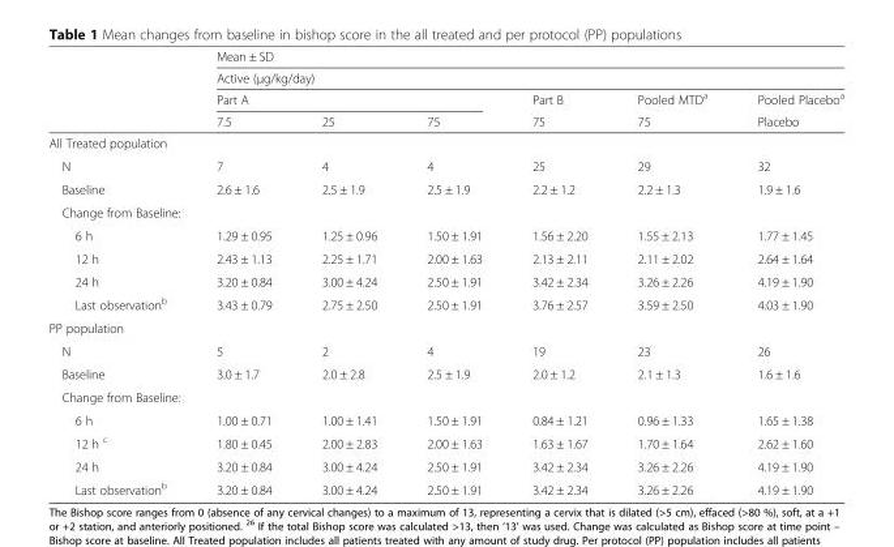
<table><thead><tr><td rowspan="4"></td><td rowspan="2" colspan="6">Mean ± SD Active (μg/kg/day)</td></tr><tr></tr><tr><td colspan="3">Part A</td><td rowspan="2">Part B 75</td><td rowspan="2">Pooled MTD<sup>a</sup> 75</td><td rowspan="2">Pooled Placebo<sup>a</sup> Placebo</td></tr><tr><td>7.5</td><td>25</td><td>75</td></tr></thead><tbody><tr><td colspan="7">All Treated population</td></tr><tr><td>N</td><td>7</td><td>4</td><td>4</td><td>25</td><td>29</td><td>32</td></tr><tr><td>Baseline</td><td>2.6 ± 1.6</td><td>2.5 ± 1.9</td><td>2.5 ± 1.9</td><td>2.2 ± 1.2</td><td>2.2 ± 1.3</td><td>1.9 ± 1.6</td></tr><tr><td colspan="7">Change from Baseline:</td></tr><tr><td>6 h</td><td>1.29 ± 0.95</td><td>1.25 ± 0.96</td><td>1.50 ± 1.91</td><td>1.56 ± 2.20</td><td>1.55 ± 2.13</td><td>1.77 ± 1.45</td></tr><tr><td>12 h</td><td>2.43 ± 1.13</td><td>2.25 ± 1.71</td><td>2.00 ± 1.63</td><td>2.13 ± 2.11</td><td>2.11 ± 2.02</td><td>2.64 ± 1.64</td></tr><tr><td>24 h</td><td>3.20 ± 0.84</td><td>3.00 ± 4.24</td><td>2.50 ± 1.91</td><td>3.42 ± 2.34</td><td>3.26 ± 2.26</td><td>4.19 ± 1.90</td></tr><tr><td>Last observation<sup>b</sup></td><td>3.43 ± 0.79</td><td>2.75 ± 2.50</td><td>2.50 ± 1.91</td><td>3.76 ± 2.57</td><td>3.59 ± 2.50</td><td>4.03 ± 1.90</td></tr><tr><td colspan="7">PP population</td></tr><tr><td>N</td><td>5</td><td>2</td><td>4</td><td>19</td><td>23</td><td>26</td></tr><tr><td>Baseline</td><td>3.0 ± 1.7</td><td>2.0 ± 2.8</td><td>2.5 ± 1.9</td><td>2.0 ± 1.2</td><td>2.1 ± 1.3</td><td>1.6 ± 1.6</td></tr><tr><td colspan="7">Change from Baseline:</td></tr><tr><td>6 h</td><td>1.00 ± 0.71</td><td>1.00 ± 1.41</td><td>1.50 ± 1.91</td><td>0.84 ± 1.21</td><td>0.96 ± 1.33</td><td>1.65 ± 1.38</td></tr><tr><td>12 h <sup>c</sup></td><td>1.80 ± 0.45</td><td>2.00 ± 2.83</td><td>2.00 ± 1.63</td><td>1.63 ± 1.67</td><td>1.70 ± 1.64</td><td>2.62 ± 1.60</td></tr><tr><td>24 h</td><td>3.20 ± 0.84</td><td>3.00 ± 4.24</td><td>2.50 ± 1.91</td><td>3.42 ± 2.34</td><td>3.26 ± 2.26</td><td>4.19 ± 1.90</td></tr><tr><td>Last observation<sup>b</sup></td><td>3.20 ± 0.84</td><td>3.00 ± 4.24</td><td>2.50 ± 1.91</td><td>3.42 ± 2.34</td><td>3.26 ± 2.26</td><td>4.19 ± 1.90</td></tr></tbody></table>